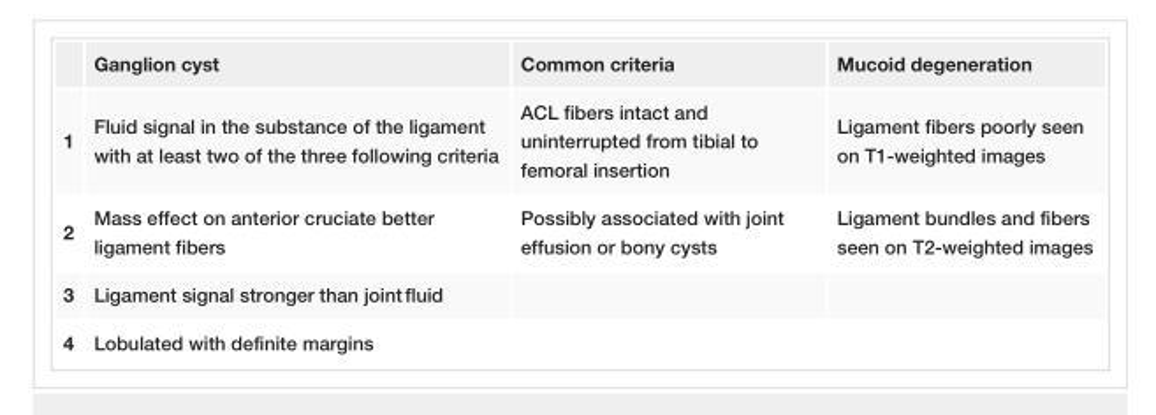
<table><thead><tr><td></td><td>Ganglion cyst</td><td>Common criteria</td><td>Mucoid degeneration</td></tr></thead><tbody><tr><td>1</td><td>Fluid signal in the substance of the ligament with at least two of the three following criteria</td><td>ACL fibers intact and uninterrupted from tibial to femoral insertion</td><td>Ligament fibers poorly seen on T1-weighted images</td></tr><tr><td>2</td><td>Mass effect on anterior cruciate better ligament fibers</td><td>Possibly associated with joint effusion or bony cysts</td><td>Ligament bundles and fibers seen on T2-weighted images</td></tr><tr><td>3</td><td>Ligament signal stronger than joint fluid</td><td></td><td></td></tr><tr><td>4</td><td>Lobulated with definite margins</td><td></td><td></td></tr></tbody></table>